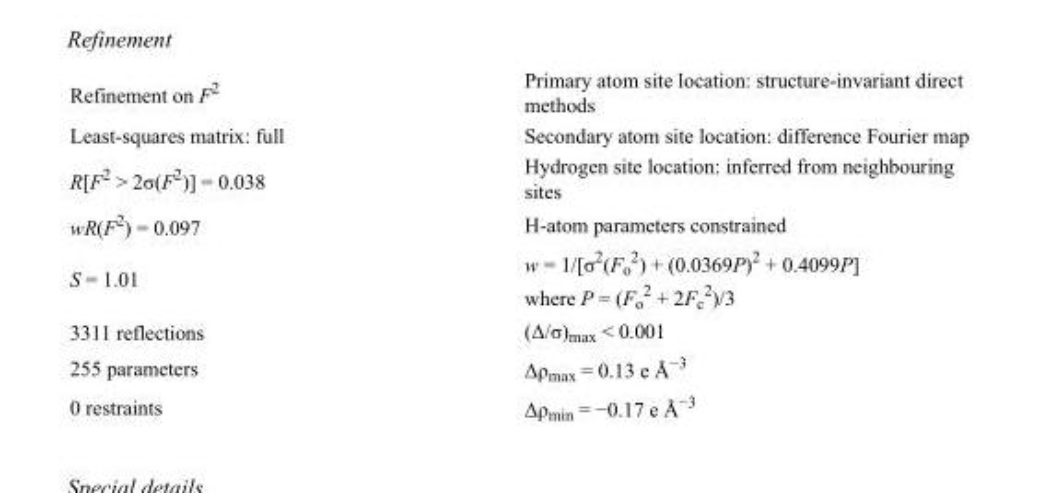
<table><tbody><tr><td>Refinement on F<sup>2</sup></td><td>Primary atom site location: structure-invariant direct methods</td></tr><tr><td>Least-squares matrix: full</td><td>Secondary atom site location: difference Fourier map</td></tr><tr><td>R[F<sup>2</sup> &gt; 2σ(F<sup>2</sup>)] = 0.038</td><td>Hydrogen site location: inferred from neighbouring sites</td></tr><tr><td>wR(F<sup>2</sup>) = 0.097</td><td>H-atom parameters constrained</td></tr><tr><td>S = 1.01</td><td>w = 1/[σ<sup>2</sup>(F<sub>o</sub> <sup>2</sup>) + (0.0369P)<sup>2</sup> + 0.4099P] where P = (F<sub>o</sub> <sup>2</sup> + 2F<sub>c</sub> <sup>2</sup>)/3</td></tr><tr><td>3311 reflections</td><td>(Δ/σ)<sub>max</sub> &lt; 0.001</td></tr><tr><td>255 parameters</td><td>Δρ<sub>max</sub> = 0.13 e Å<sup>−3</sup></td></tr><tr><td>0 restraints</td><td>Δρ<sub>min</sub> = −0.17 e Å<sup>−3</sup></td></tr></tbody></table>